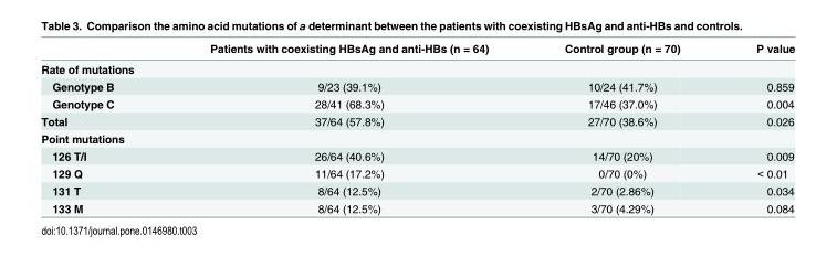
<table><thead><tr><td></td><td>Patients with coexisting HBsAg and anti-HBs (n = 64)</td><td>Control group (n = 70)</td><td>P value</td></tr></thead><tbody><tr><td colspan="4">Rate of mutations</td></tr><tr><td>Genotype B</td><td>9/23 (39.1%)</td><td>10/24 (41.7%)</td><td>0.859</td></tr><tr><td>Genotype C</td><td>28/41 (68.3%)</td><td>17/46 (37.0%)</td><td>0.004</td></tr><tr><td>Total</td><td>37/64 (57.8%)</td><td>27/70 (38.6%)</td><td>0.026</td></tr><tr><td colspan="4">Point mutations</td></tr><tr><td>126 T/I</td><td>26/64 (40.6%)</td><td>14/70 (20%)</td><td>0.009</td></tr><tr><td>129 Q</td><td>11/64 (17.2%)</td><td>0/70 (0%)</td><td>&lt; 0.01</td></tr><tr><td>131 T</td><td>8/64 (12.5%)</td><td>2/70 (2.86%)</td><td>0.034</td></tr><tr><td>133 M</td><td>8/64 (12.5%)</td><td>3/70 (4.29%)</td><td>0.084</td></tr></tbody></table>